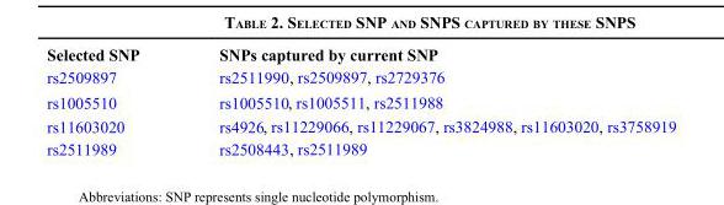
<table><thead><tr><td>Selected SNP</td><td>SNPs captured by current SNP</td></tr></thead><tbody><tr><td>rs2509897</td><td>rs2511990, rs2509897, rs2729376</td></tr><tr><td>rs1005510</td><td>rs1005510, rs1005511, rs2511988</td></tr><tr><td>rs11603020</td><td>rs4926, rs11229066, rs11229067, rs3824988, rs11603020, rs3758919</td></tr><tr><td>rs2511989</td><td>rs2508443, rs2511989</td></tr></tbody></table>